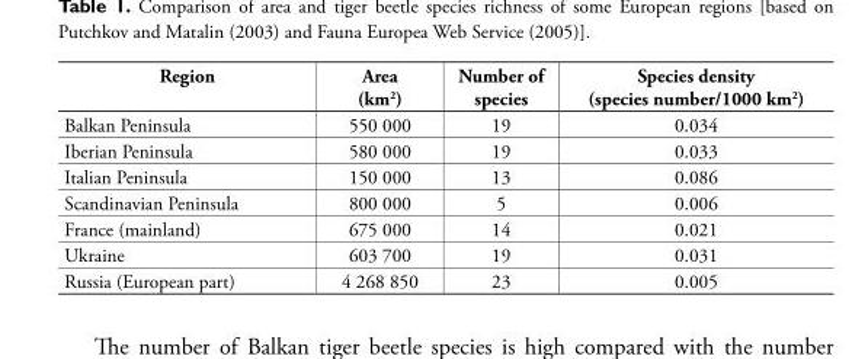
<table><thead><tr><td>Region</td><td>Area (km2)</td><td>Number of species</td><td>Species density (species number/1000 km2)</td></tr></thead><tbody><tr><td>Balkan Peninsula</td><td>550 000</td><td>19</td><td>0.034</td></tr><tr><td>Iberian Peninsula</td><td>580 000</td><td>19</td><td>0.033</td></tr><tr><td>Italian Peninsula</td><td>150 000</td><td>13</td><td>0.086</td></tr><tr><td>Scandinavian Peninsula</td><td>800 000</td><td>5</td><td>0.006</td></tr><tr><td>France (mainland)</td><td>675 000</td><td>14</td><td>0.021</td></tr><tr><td>Ukraine</td><td>603 700</td><td>19</td><td>0.031</td></tr><tr><td>Russia (European part)</td><td>4 268 850</td><td>23</td><td>0.005</td></tr></tbody></table>